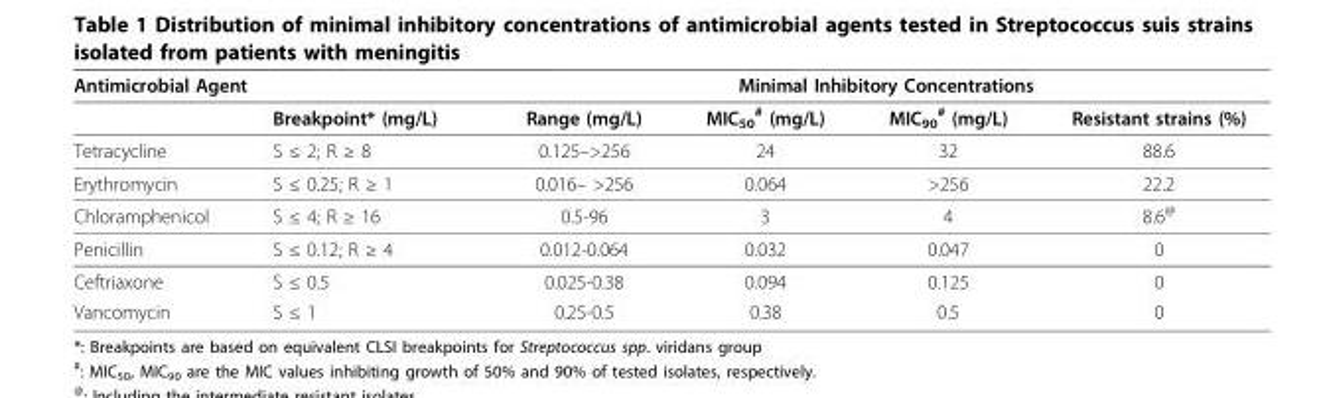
<table><thead><tr><td colspan="2">Antimicrobial Agent</td><td colspan="4">Minimal Inhibitory Concentrations</td></tr><tr><td></td><td>Breakpoint* (mg/L)</td><td>Range (mg/L)</td><td>MIC<sub>50</sub> <sup>#</sup> (mg/L)</td><td>MIC<sub>90</sub> <sup>#</sup> (mg/L)</td><td>Resistant strains (%)</td></tr></thead><tbody><tr><td>Tetracycline</td><td>S ≤ 2; R ≥ 8</td><td>0.125–&gt;256</td><td>24</td><td>32</td><td>88.6</td></tr><tr><td>Erythromycin</td><td>S ≤ 0.25; R ≥ 1</td><td>0.016– &gt;256</td><td>0.064</td><td>&gt;256</td><td>22.2</td></tr><tr><td>Chloramphenicol</td><td>S ≤ 4; R ≥ 16</td><td>0.5-96</td><td>3</td><td>4</td><td>8.6<sup>@</sup></td></tr><tr><td>Penicillin</td><td>S ≤ 0.12; R ≥ 4</td><td>0.012-0.064</td><td>0.032</td><td>0.047</td><td>0</td></tr><tr><td>Ceftriaxone</td><td>S ≤ 0.5</td><td>0.025-0.38</td><td>0.094</td><td>0.125</td><td>0</td></tr><tr><td>Vancomycin</td><td>S ≤ 1</td><td>0.25-0.5</td><td>0.38</td><td>0.5</td><td>0</td></tr></tbody></table>